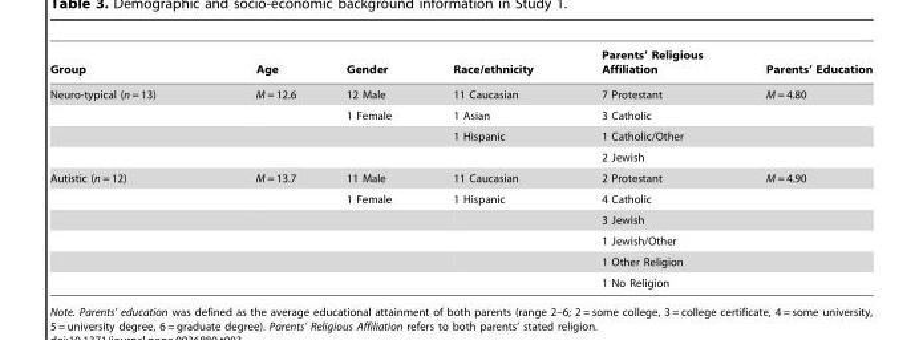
<table><thead><tr><td>Group</td><td>Age</td><td>Gender</td><td>Race/ethnicity</td><td>Parents’ Religious Affiliation</td><td>Parents’ Education</td></tr></thead><tbody><tr><td rowspan="4">Neuro-typical (n = 13)</td><td>M = 12.6</td><td>12 Male</td><td>11 Caucasian</td><td>7 Protestant</td><td>M = 4.80</td></tr><tr><td></td><td>1 Female</td><td>1 Asian</td><td>3 Catholic</td><td></td></tr><tr><td></td><td></td><td>1 Hispanic</td><td>1 Catholic/Other</td><td></td></tr><tr><td></td><td></td><td></td><td>2 Jewish</td><td></td></tr><tr><td rowspan="6">Autistic (n = 12)</td><td>M = 13.7</td><td>11 Male</td><td>11 Caucasian</td><td>2 Protestant</td><td>M = 4.90</td></tr><tr><td></td><td>1 Female</td><td>1 Hispanic</td><td>4 Catholic</td><td></td></tr><tr><td></td><td></td><td></td><td>3 Jewish</td><td></td></tr><tr><td></td><td></td><td></td><td>1 Jewish/Other</td><td></td></tr><tr><td></td><td></td><td></td><td>1 Other Religion</td><td></td></tr><tr><td></td><td></td><td></td><td>1 No Religion</td><td></td></tr></tbody></table>